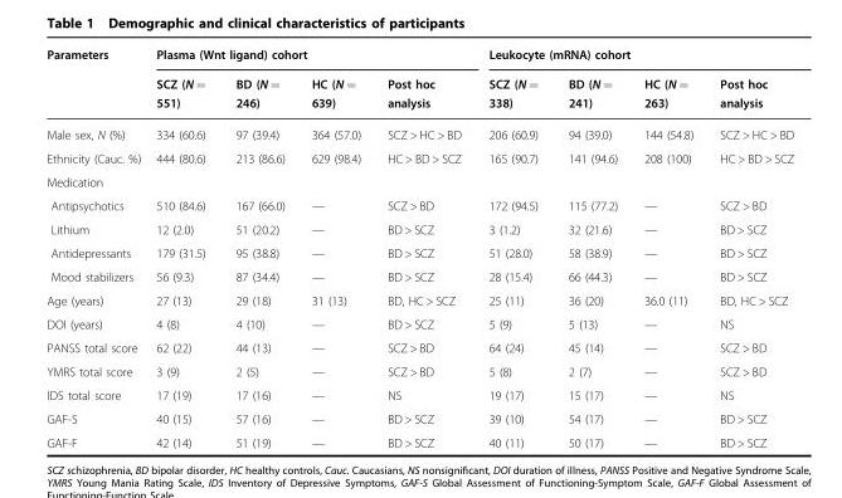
<table><thead><tr><td rowspan="2">Parameters</td><td colspan="4">Plasma (Wnt ligand) cohort</td><td colspan="4">Leukocyte (mRNA) cohort</td></tr><tr><td>SCZ (N = 551)</td><td>BD (N = 246)</td><td>HC (N = 639)</td><td>Post hoc analysis</td><td>SCZ (N = 338)</td><td>BD (N = 241)</td><td>HC (N = 263)</td><td>Post hoc analysis</td></tr></thead><tbody><tr><td>Male sex, N (%)</td><td>334 (60.6)</td><td>97 (39.4)</td><td>364 (57.0)</td><td>SCZ &gt; HC &gt; BD</td><td>206 (60.9)</td><td>94 (39.0)</td><td>144 (54.8)</td><td>SCZ &gt; HC &gt; BD</td></tr><tr><td>Ethnicity (Cauc. %)</td><td>444 (80.6)</td><td>213 (86.6)</td><td>629 (98.4)</td><td>HC &gt; BD &gt; SCZ</td><td>165 (90.7)</td><td>141 (94.6)</td><td>208 (100)</td><td>HC &gt; BD &gt; SCZ</td></tr><tr><td colspan="9">Medication</td></tr><tr><td>Antipsychotics</td><td>510 (84.6)</td><td>167 (66.0)</td><td>—</td><td>SCZ &gt; BD</td><td>172 (94.5)</td><td>115 (77.2)</td><td>—</td><td>SCZ &gt; BD</td></tr><tr><td>Lithium</td><td>12 (2.0)</td><td>51 (20.2)</td><td>—</td><td>BD &gt; SCZ</td><td>3 (1.2)</td><td>32 (21.6)</td><td>—</td><td>BD &gt; SCZ</td></tr><tr><td>Antidepressants</td><td>179 (31.5)</td><td>95 (38.8)</td><td>—</td><td>BD &gt; SCZ</td><td>51 (28.0)</td><td>58 (38.9)</td><td>—</td><td>BD &gt; SCZ</td></tr><tr><td>Mood stabilizers</td><td>56 (9.3)</td><td>87 (34.4)</td><td>—</td><td>BD &gt; SCZ</td><td>28 (15.4)</td><td>66 (44.3)</td><td>—</td><td>BD &gt; SCZ</td></tr><tr><td>Age (years)</td><td>27 (13)</td><td>29 (18)</td><td>31 (13)</td><td>BD, HC &gt; SCZ</td><td>25 (11)</td><td>36 (20)</td><td>36.0 (11)</td><td>BD, HC &gt; SCZ</td></tr><tr><td>DOI (years)</td><td>4 (8)</td><td>4 (10)</td><td>—</td><td>BD &gt; SCZ</td><td>5 (9)</td><td>5 (13)</td><td>—</td><td>NS</td></tr><tr><td>PANSS total score</td><td>62 (22)</td><td>44 (13)</td><td>—</td><td>SCZ &gt; BD</td><td>64 (24)</td><td>45 (14)</td><td>—</td><td>SCZ &gt; BD</td></tr><tr><td>YMRS total score</td><td>3 (9)</td><td>2 (5)</td><td>—</td><td>SCZ &gt; BD</td><td>5 (8)</td><td>2 (7)</td><td>—</td><td>SCZ &gt; BD</td></tr><tr><td>IDS total score</td><td>17 (19)</td><td>17 (16)</td><td>—</td><td>NS</td><td>19 (17)</td><td>15 (17)</td><td>—</td><td>NS</td></tr><tr><td>GAF-S</td><td>40 (15)</td><td>57 (16)</td><td>—</td><td>BD &gt; SCZ</td><td>39 (10)</td><td>54 (17)</td><td>—</td><td>BD &gt; SCZ</td></tr><tr><td>GAF-F</td><td>42 (14)</td><td>51 (19)</td><td>—</td><td>BD &gt; SCZ</td><td>40 (11)</td><td>50 (17)</td><td>—</td><td>BD &gt; SCZ</td></tr></tbody></table>